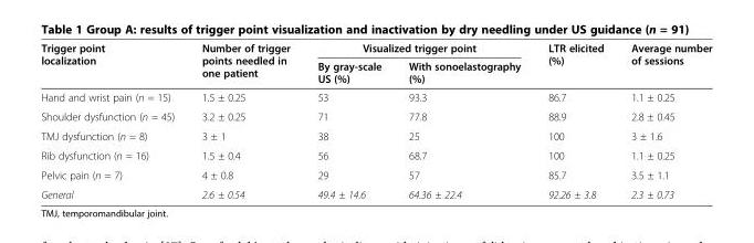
<table><thead><tr><td rowspan="2">Trigger point localization</td><td rowspan="2">Number of trigger points needled in one patient</td><td colspan="2">Visualized trigger point</td><td rowspan="2">LTR elicited (%)</td><td rowspan="2">Average number of sessions</td></tr><tr><td>By gray-scale US (%)</td><td>With sonoelastography (%)</td></tr></thead><tbody><tr><td>Hand and wrist pain (n = 15)</td><td>1.5 ± 0.25</td><td>53</td><td>93.3</td><td>86.7</td><td>1.1 ± 0.25</td></tr><tr><td>Shoulder dysfunction (n = 45)</td><td>3.2 ± 0.25</td><td>71</td><td>77.8</td><td>88.9</td><td>2.8 ± 0.45</td></tr><tr><td>TMJ dysfunction (n = 8)</td><td>3 ± 1</td><td>38</td><td>25</td><td>100</td><td>3 ± 1.6</td></tr><tr><td>Rib dysfunction (n = 16)</td><td>1.5 ± 0.4</td><td>56</td><td>68.7</td><td>100</td><td>1.1 ± 0.25</td></tr><tr><td>Pelvic pain (n = 7)</td><td>4 ± 0.8</td><td>29</td><td>57</td><td>85.7</td><td>3.5 ± 1.1</td></tr><tr><td>General</td><td>2.6 ± 0.54</td><td>49.4 ± 14.6</td><td>64.36 ± 22.4</td><td>92.26 ± 3.8</td><td>2.3 ± 0.73</td></tr></tbody></table>